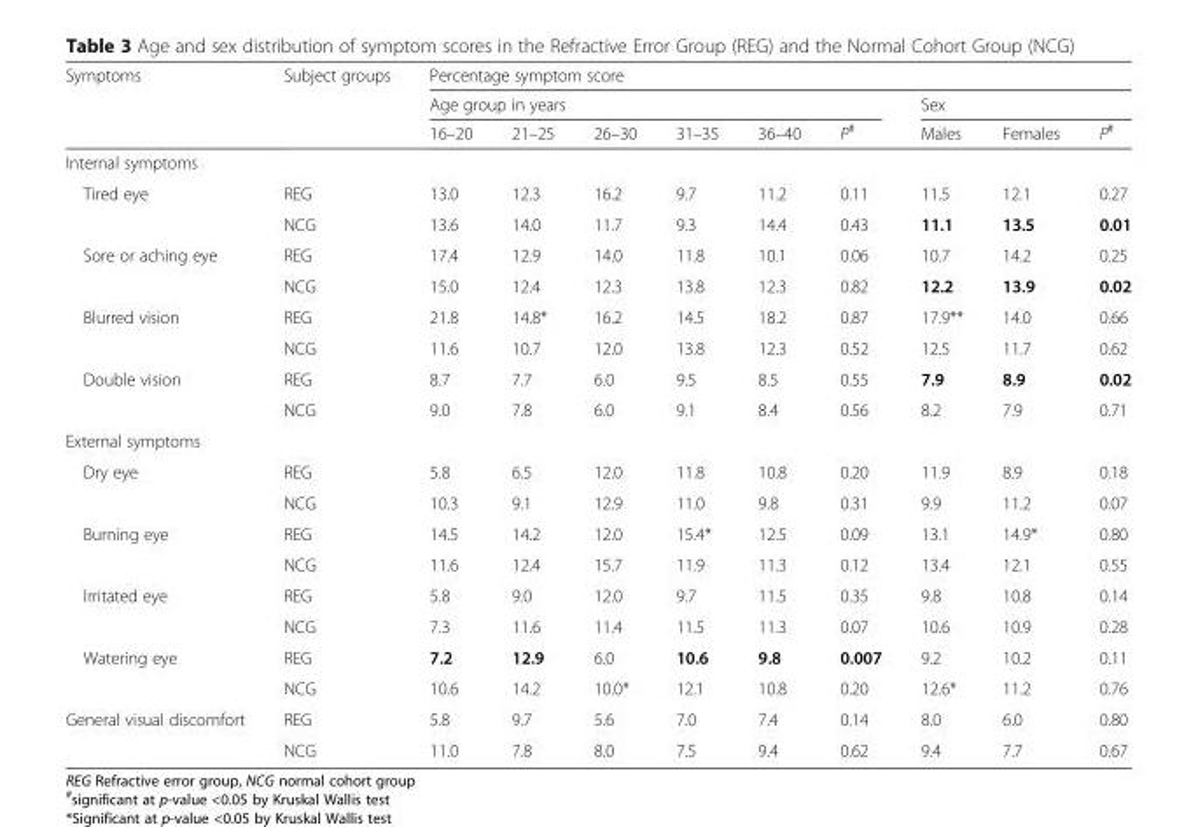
<table><thead><tr><td rowspan="3">Symptoms</td><td rowspan="3">Subject groups</td><td colspan="9">Percentage symptom score</td></tr><tr><td colspan="6">Age group in years</td><td colspan="3">Sex</td></tr><tr><td>16–20</td><td>21–25</td><td>26–30</td><td>31–35</td><td>36–40</td><td>P<sup>#</sup></td><td>Males</td><td>Females</td><td>P<sup>#</sup></td></tr></thead><tbody><tr><td colspan="11">Internal symptoms</td></tr><tr><td rowspan="2">Tired eye</td><td>REG</td><td>13.0</td><td>12.3</td><td>16.2</td><td>9.7</td><td>11.2</td><td>0.11</td><td>11.5</td><td>12.1</td><td>0.27</td></tr><tr><td>NCG</td><td>13.6</td><td>14.0</td><td>11.7</td><td>9.3</td><td>14.4</td><td>0.43</td><td>11.1</td><td>13.5</td><td>0.01</td></tr><tr><td rowspan="2">Sore or aching eye</td><td>REG</td><td>17.4</td><td>12.9</td><td>14.0</td><td>11.8</td><td>10.1</td><td>0.06</td><td>10.7</td><td>14.2</td><td>0.25</td></tr><tr><td>NCG</td><td>15.0</td><td>12.4</td><td>12.3</td><td>13.8</td><td>12.3</td><td>0.82</td><td>12.2</td><td>13.9</td><td>0.02</td></tr><tr><td rowspan="2">Blurred vision</td><td>REG</td><td>21.8</td><td>14.8*</td><td>16.2</td><td>14.5</td><td>18.2</td><td>0.87</td><td>17.9**</td><td>14.0</td><td>0.66</td></tr><tr><td>NCG</td><td>11.6</td><td>10.7</td><td>12.0</td><td>13.8</td><td>12.3</td><td>0.52</td><td>12.5</td><td>11.7</td><td>0.62</td></tr><tr><td rowspan="2">Double vision</td><td>REG</td><td>8.7</td><td>7.7</td><td>6.0</td><td>9.5</td><td>8.5</td><td>0.55</td><td>7.9</td><td>8.9</td><td>0.02</td></tr><tr><td>NCG</td><td>9.0</td><td>7.8</td><td>6.0</td><td>9.1</td><td>8.4</td><td>0.56</td><td>8.2</td><td>7.9</td><td>0.71</td></tr><tr><td colspan="11">External symptoms</td></tr><tr><td rowspan="2">Dry eye</td><td>REG</td><td>5.8</td><td>6.5</td><td>12.0</td><td>11.8</td><td>10.8</td><td>0.20</td><td>11.9</td><td>8.9</td><td>0.18</td></tr><tr><td>NCG</td><td>10.3</td><td>9.1</td><td>12.9</td><td>11.0</td><td>9.8</td><td>0.31</td><td>9.9</td><td>11.2</td><td>0.07</td></tr><tr><td rowspan="2">Burning eye</td><td>REG</td><td>14.5</td><td>14.2</td><td>12.0</td><td>15.4*</td><td>12.5</td><td>0.09</td><td>13.1</td><td>14.9*</td><td>0.80</td></tr><tr><td>NCG</td><td>11.6</td><td>12.4</td><td>15.7</td><td>11.9</td><td>11.3</td><td>0.12</td><td>13.4</td><td>12.1</td><td>0.55</td></tr><tr><td rowspan="2">Irritated eye</td><td>REG</td><td>5.8</td><td>9.0</td><td>12.0</td><td>9.7</td><td>11.5</td><td>0.35</td><td>9.8</td><td>10.8</td><td>0.14</td></tr><tr><td>NCG</td><td>7.3</td><td>11.6</td><td>11.4</td><td>11.5</td><td>11.3</td><td>0.07</td><td>10.6</td><td>10.9</td><td>0.28</td></tr><tr><td rowspan="2">Watering eye</td><td>REG</td><td>7.2</td><td>12.9</td><td>6.0</td><td>10.6</td><td>9.8</td><td>0.007</td><td>9.2</td><td>10.2</td><td>0.11</td></tr><tr><td>NCG</td><td>10.6</td><td>14.2</td><td>10.0*</td><td>12.1</td><td>10.8</td><td>0.20</td><td>12.6*</td><td>11.2</td><td>0.76</td></tr><tr><td rowspan="2">General visual discomfort</td><td>REG</td><td>5.8</td><td>9.7</td><td>5.6</td><td>7.0</td><td>7.4</td><td>0.14</td><td>8.0</td><td>6.0</td><td>0.80</td></tr><tr><td>NCG</td><td>11.0</td><td>7.8</td><td>8.0</td><td>7.5</td><td>9.4</td><td>0.62</td><td>9.4</td><td>7.7</td><td>0.67</td></tr></tbody></table>